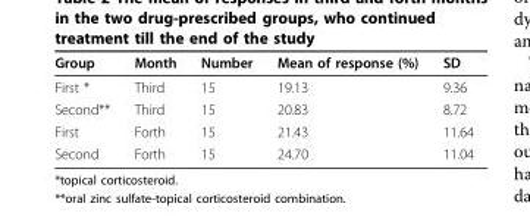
<table><thead><tr><td>Group</td><td>Month</td><td>Number</td><td>Mean of response (%)</td><td>SD</td></tr></thead><tbody><tr><td>First *</td><td>Third</td><td>15</td><td>19.13</td><td>9.36</td></tr><tr><td>Second**</td><td>Third</td><td>15</td><td>20.83</td><td>8.72</td></tr><tr><td>First</td><td>Forth</td><td>15</td><td>21.43</td><td>11.64</td></tr><tr><td>Second</td><td>Forth</td><td>15</td><td>24.70</td><td>11.04</td></tr></tbody></table>